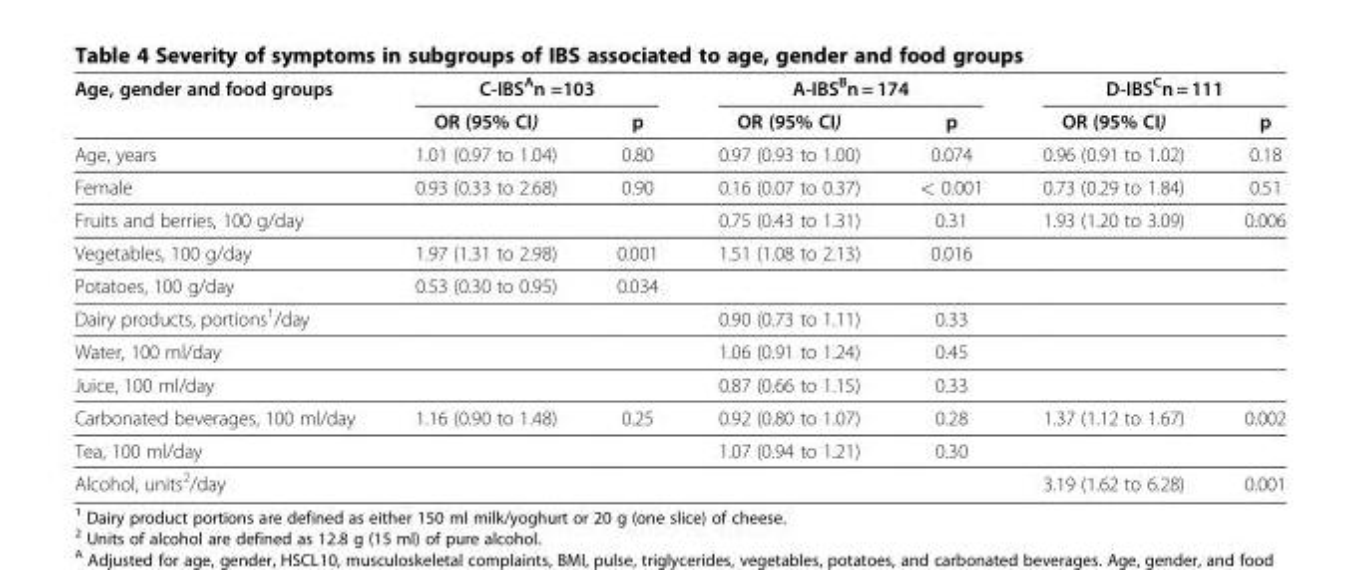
<table><thead><tr><td rowspan="2">Age, gender and food groups</td><td colspan="2">C-IBS<sup>A</sup>n =103</td><td colspan="2">A-IBS<sup>B</sup>n = 174</td><td colspan="2">D-IBS<sup>C</sup>n = 111</td></tr><tr><td>OR (95% CI)</td><td>p</td><td>OR (95% CI)</td><td>p</td><td>OR (95% CI)</td><td>p</td></tr></thead><tbody><tr><td>Age, years</td><td>1.01 (0.97 to 1.04)</td><td>0.80</td><td>0.97 (0.93 to 1.00)</td><td>0.074</td><td>0.96 (0.91 to 1.02)</td><td>0.18</td></tr><tr><td>Female</td><td>0.93 (0.33 to 2.68)</td><td>0.90</td><td>0.16 (0.07 to 0.37)</td><td>&lt; 0.001</td><td>0.73 (0.29 to 1.84)</td><td>0.51</td></tr><tr><td>Fruits and berries, 100 g/day</td><td></td><td></td><td>0.75 (0.43 to 1.31)</td><td>0.31</td><td>1.93 (1.20 to 3.09)</td><td>0.006</td></tr><tr><td>Vegetables, 100 g/day</td><td>1.97 (1.31 to 2.98)</td><td>0.001</td><td>1.51 (1.08 to 2.13)</td><td>0.016</td><td></td><td></td></tr><tr><td>Potatoes, 100 g/day</td><td>0.53 (0.30 to 0.95)</td><td>0.034</td><td></td><td></td><td></td><td></td></tr><tr><td>Dairy products, portions<sup>1</sup>/day</td><td></td><td></td><td>0.90 (0.73 to 1.11)</td><td>0.33</td><td></td><td></td></tr><tr><td>Water, 100 ml/day</td><td></td><td></td><td>1.06 (0.91 to 1.24)</td><td>0.45</td><td></td><td></td></tr><tr><td>Juice, 100 ml/day</td><td></td><td></td><td>0.87 (0.66 to 1.15)</td><td>0.33</td><td></td><td></td></tr><tr><td>Carbonated beverages, 100 ml/day</td><td>1.16 (0.90 to 1.48)</td><td>0.25</td><td>0.92 (0.80 to 1.07)</td><td>0.28</td><td>1.37 (1.12 to 1.67)</td><td>0.002</td></tr><tr><td>Tea, 100 ml/day</td><td></td><td></td><td>1.07 (0.94 to 1.21)</td><td>0.30</td><td></td><td></td></tr><tr><td>Alcohol, units<sup>2</sup>/day</td><td></td><td></td><td></td><td></td><td>3.19 (1.62 to 6.28)</td><td>0.001</td></tr></tbody></table>